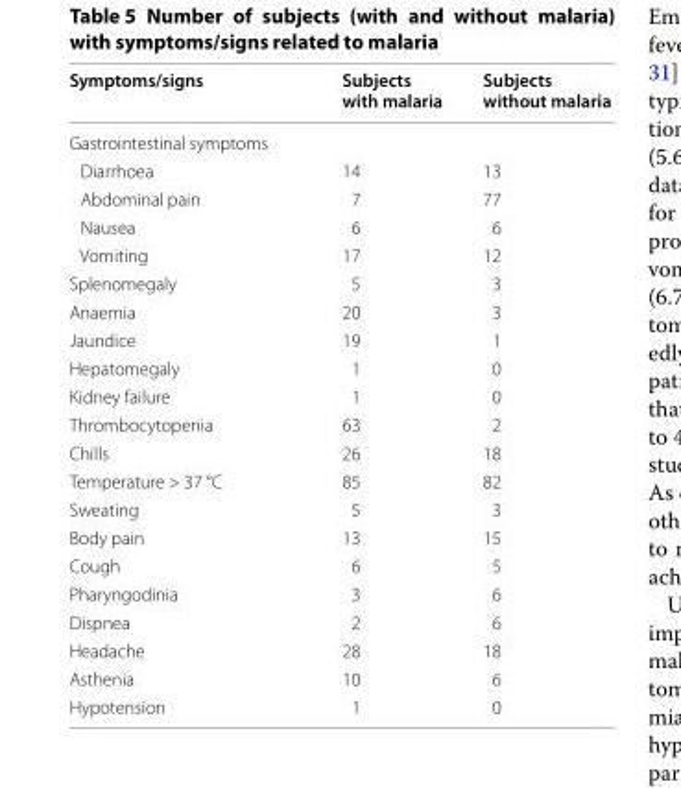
<table><thead><tr><td>Symptoms/signs</td><td>Subjects with malaria</td><td>Subjects without malaria</td></tr></thead><tbody><tr><td colspan="3">Gastrointestinal symptoms</td></tr><tr><td>Diarrhoea</td><td>14</td><td>13</td></tr><tr><td>Abdominal pain</td><td>7</td><td>77</td></tr><tr><td>Nausea</td><td>6</td><td>6</td></tr><tr><td>Vomiting</td><td>17</td><td>12</td></tr><tr><td>Splenomegaly</td><td>5</td><td>3</td></tr><tr><td>Anaemia</td><td>20</td><td>3</td></tr><tr><td>Jaundice</td><td>19</td><td>1</td></tr><tr><td>Hepatomegaly</td><td>1</td><td>0</td></tr><tr><td>Kidney failure</td><td>1</td><td>0</td></tr><tr><td>Thrombocytopenia</td><td>63</td><td>2</td></tr><tr><td>Chills</td><td>26</td><td>18</td></tr><tr><td>Temperature &gt; 37 °C</td><td>85</td><td>82</td></tr><tr><td>Sweating</td><td>5</td><td>3</td></tr><tr><td>Body pain</td><td>13</td><td>15</td></tr><tr><td>Cough</td><td>6</td><td>5</td></tr><tr><td>Pharyngodinia</td><td>3</td><td>6</td></tr><tr><td>Dispnea</td><td>2</td><td>6</td></tr><tr><td>Headache</td><td>28</td><td>18</td></tr><tr><td>Asthenia</td><td>10</td><td>6</td></tr><tr><td>Hypotension</td><td>1</td><td>0</td></tr></tbody></table>